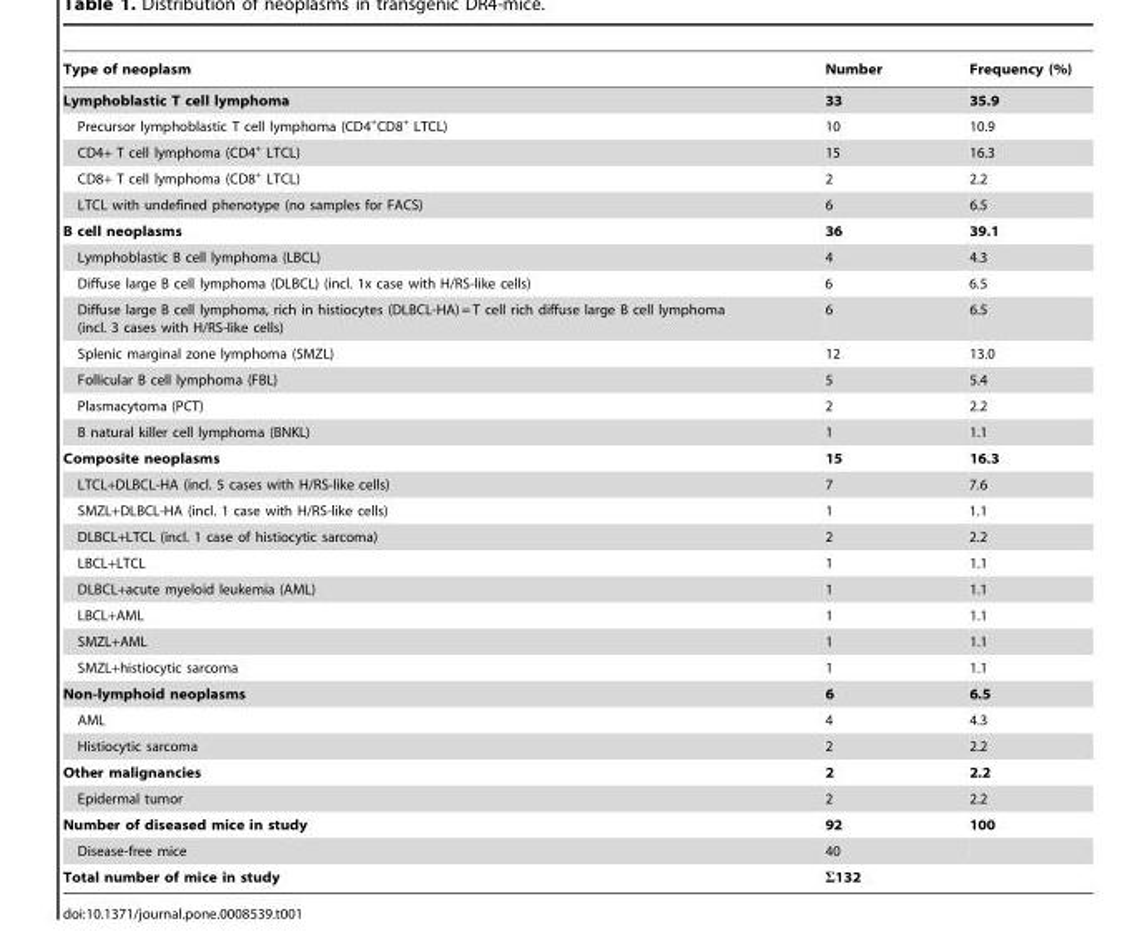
<table><thead><tr><td>Type of neoplasm</td><td>Number</td><td>Frequency (%)</td></tr></thead><tbody><tr><td>Lymphoblastic T cell lymphoma</td><td>33</td><td>35.9</td></tr><tr><td>Precursor lymphoblastic T cell lymphoma (CD4<sup>+</sup>CD8<sup>+</sup> LTCL)</td><td>10</td><td>10.9</td></tr><tr><td>CD4+ T cell lymphoma (CD4<sup>+</sup> LTCL)</td><td>15</td><td>16.3</td></tr><tr><td>CD8+ T cell lymphoma (CD8<sup>+</sup> LTCL)</td><td>2</td><td>2.2</td></tr><tr><td>LTCL with undefined phenotype (no samples for FACS)</td><td>6</td><td>6.5</td></tr><tr><td>B cell neoplasms</td><td>36</td><td>39.1</td></tr><tr><td>Lymphoblastic B cell lymphoma (LBCL)</td><td>4</td><td>4.3</td></tr><tr><td>Diffuse large B cell lymphoma (DLBCL) (incl. 1x case with H/RS-like cells)</td><td>6</td><td>6.5</td></tr><tr><td>Diffuse large B cell lymphoma, rich in histiocytes (DLBCL-HA) = T cell rich diffuse large B cell lymphoma (incl. 3 cases with H/RS-like cells)</td><td>6</td><td>6.5</td></tr><tr><td>Splenic marginal zone lymphoma (SMZL)</td><td>12</td><td>13.0</td></tr><tr><td>Follicular B cell lymphoma (FBL)</td><td>5</td><td>5.4</td></tr><tr><td>Plasmacytoma (PCT)</td><td>2</td><td>2.2</td></tr><tr><td>B natural killer cell lymphoma (BNKL)</td><td>1</td><td>1.1</td></tr><tr><td>Composite neoplasms</td><td>15</td><td>16.3</td></tr><tr><td>LTCL+DLBCL-HA (incl. 5 cases with H/RS-like cells)</td><td>7</td><td>7.6</td></tr><tr><td>SMZL+DLBCL-HA (incl. 1 case with H/RS-like cells)</td><td>1</td><td>1.1</td></tr><tr><td>DLBCL+LTCL (incl. 1 case of histiocytic sarcoma)</td><td>2</td><td>2.2</td></tr><tr><td>LBCL+LTCL</td><td>1</td><td>1.1</td></tr><tr><td>DLBCL+acute myeloid leukemia (AML)</td><td>1</td><td>1.1</td></tr><tr><td>LBCL+AML</td><td>1</td><td>1.1</td></tr><tr><td>SMZL+AML</td><td>1</td><td>1.1</td></tr><tr><td>SMZL+histiocytic sarcoma</td><td>1</td><td>1.1</td></tr><tr><td>Non-lymphoid neoplasms</td><td>6</td><td>6.5</td></tr><tr><td>AML</td><td>4</td><td>4.3</td></tr><tr><td>Histiocytic sarcoma</td><td>2</td><td>2.2</td></tr><tr><td>Other malignancies</td><td>2</td><td>2.2</td></tr><tr><td>Epidermal tumor</td><td>2</td><td>2.2</td></tr><tr><td>Number of diseased mice in study</td><td>92</td><td>100</td></tr><tr><td>Disease-free mice</td><td>40</td><td></td></tr><tr><td>Total number of mice in study</td><td>Σ132</td><td></td></tr></tbody></table>